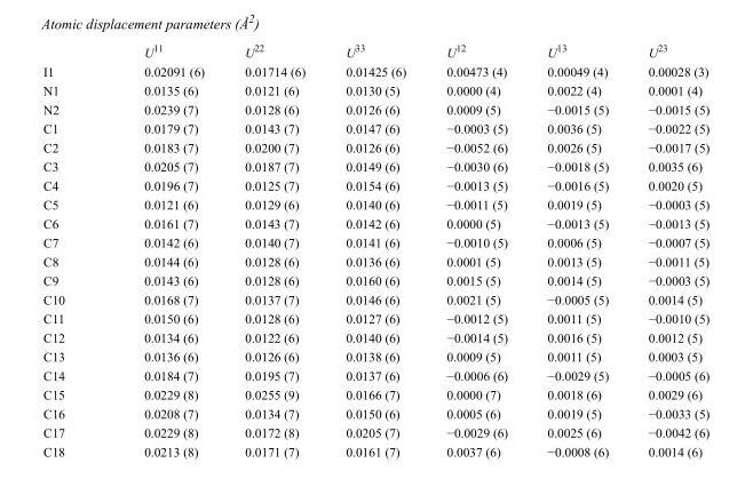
<table><thead><tr><td></td><td>U<sup>11</sup></td><td>U<sup>22</sup></td><td>U<sup>33</sup></td><td>U<sup>12</sup></td><td>U<sup>13</sup></td><td>U<sup>23</sup></td></tr></thead><tbody><tr><td>I1</td><td>0.02091 (6)</td><td>0.01714 (6)</td><td>0.01425 (6)</td><td>0.00473 (4)</td><td>0.00049 (4)</td><td>0.00028 (3)</td></tr><tr><td>N1</td><td>0.0135 (6)</td><td>0.0121 (6)</td><td>0.0130 (5)</td><td>0.0000 (4)</td><td>0.0022 (4)</td><td>0.0001 (4)</td></tr><tr><td>N2</td><td>0.0239 (7)</td><td>0.0128 (6)</td><td>0.0126 (6)</td><td>0.0009 (5)</td><td>−0.0015 (5)</td><td>−0.0015 (5)</td></tr><tr><td>C1</td><td>0.0179 (7)</td><td>0.0143 (7)</td><td>0.0147 (6)</td><td>−0.0003 (5)</td><td>0.0036 (5)</td><td>−0.0022 (5)</td></tr><tr><td>C2</td><td>0.0183 (7)</td><td>0.0200 (7)</td><td>0.0126 (6)</td><td>−0.0052 (6)</td><td>0.0026 (5)</td><td>−0.0017 (5)</td></tr><tr><td>C3</td><td>0.0205 (7)</td><td>0.0187 (7)</td><td>0.0149 (6)</td><td>−0.0030 (6)</td><td>−0.0018 (5)</td><td>0.0035 (6)</td></tr><tr><td>C4</td><td>0.0196 (7)</td><td>0.0125 (7)</td><td>0.0154 (6)</td><td>−0.0013 (5)</td><td>−0.0016 (5)</td><td>0.0020 (5)</td></tr><tr><td>C5</td><td>0.0121 (6)</td><td>0.0129 (6)</td><td>0.0140 (6)</td><td>−0.0011 (5)</td><td>0.0019 (5)</td><td>−0.0003 (5)</td></tr><tr><td>C6</td><td>0.0161 (7)</td><td>0.0143 (7)</td><td>0.0142 (6)</td><td>0.0000 (5)</td><td>−0.0013 (5)</td><td>−0.0013 (5)</td></tr><tr><td>C7</td><td>0.0142 (6)</td><td>0.0140 (7)</td><td>0.0141 (6)</td><td>−0.0010 (5)</td><td>0.0006 (5)</td><td>−0.0007 (5)</td></tr><tr><td>C8</td><td>0.0144 (6)</td><td>0.0128 (6)</td><td>0.0136 (6)</td><td>0.0001 (5)</td><td>0.0013 (5)</td><td>−0.0011 (5)</td></tr><tr><td>C9</td><td>0.0143 (6)</td><td>0.0128 (6)</td><td>0.0160 (6)</td><td>0.0015 (5)</td><td>0.0014 (5)</td><td>−0.0003 (5)</td></tr><tr><td>C10</td><td>0.0168 (7)</td><td>0.0137 (7)</td><td>0.0146 (6)</td><td>0.0021 (5)</td><td>−0.0005 (5)</td><td>0.0014 (5)</td></tr><tr><td>C11</td><td>0.0150 (6)</td><td>0.0128 (6)</td><td>0.0127 (6)</td><td>−0.0012 (5)</td><td>0.0011 (5)</td><td>−0.0010 (5)</td></tr><tr><td>C12</td><td>0.0134 (6)</td><td>0.0122 (6)</td><td>0.0140 (6)</td><td>−0.0014 (5)</td><td>0.0016 (5)</td><td>0.0012 (5)</td></tr><tr><td>C13</td><td>0.0136 (6)</td><td>0.0126 (6)</td><td>0.0138 (6)</td><td>0.0009 (5)</td><td>0.0011 (5)</td><td>0.0003 (5)</td></tr><tr><td>C14</td><td>0.0184 (7)</td><td>0.0195 (7)</td><td>0.0137 (6)</td><td>−0.0006 (6)</td><td>−0.0029 (5)</td><td>−0.0005 (6)</td></tr><tr><td>C15</td><td>0.0229 (8)</td><td>0.0255 (9)</td><td>0.0166 (7)</td><td>0.0000 (7)</td><td>0.0018 (6)</td><td>0.0029 (6)</td></tr><tr><td>C16</td><td>0.0208 (7)</td><td>0.0134 (7)</td><td>0.0150 (6)</td><td>0.0005 (6)</td><td>0.0019 (5)</td><td>−0.0033 (5)</td></tr><tr><td>C17</td><td>0.0229 (8)</td><td>0.0172 (8)</td><td>0.0205 (7)</td><td>−0.0029 (6)</td><td>0.0025 (6)</td><td>−0.0042 (6)</td></tr><tr><td>C18</td><td>0.0213 (8)</td><td>0.0171 (7)</td><td>0.0161 (7)</td><td>0.0037 (6)</td><td>−0.0008 (6)</td><td>0.0014 (6)</td></tr></tbody></table>